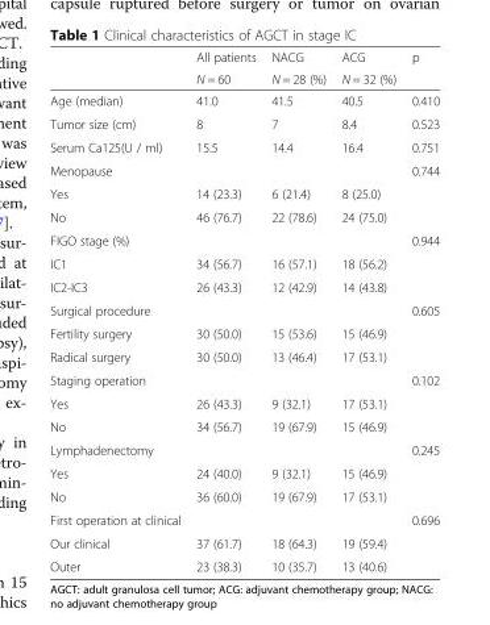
<table><thead><tr><td rowspan="2"></td><td rowspan="2">All patients N = 60</td><td rowspan="2">NACG N = 28 (%)</td><td rowspan="2">ACG N = 32 (%)</td><td rowspan="2">p</td></tr><tr></tr></thead><tbody><tr><td>Age (median)</td><td>41.0</td><td>41.5</td><td>40.5</td><td>0.410</td></tr><tr><td>Tumor size (cm)</td><td>8</td><td>7</td><td>8.4</td><td>0.523</td></tr><tr><td>Serum Ca125(U / ml)</td><td>15.5</td><td>14.4</td><td>16.4</td><td>0.751</td></tr><tr><td>Menopause</td><td></td><td></td><td></td><td>0.744</td></tr><tr><td>Yes</td><td>14 (23.3)</td><td>6 (21.4)</td><td>8 (25.0)</td><td></td></tr><tr><td>No</td><td>46 (76.7)</td><td>22 (78.6)</td><td>24 (75.0)</td><td></td></tr><tr><td>FIGO stage (%)</td><td></td><td></td><td></td><td>0.944</td></tr><tr><td>IC1</td><td>34 (56.7)</td><td>16 (57.1)</td><td>18 (56.2)</td><td></td></tr><tr><td>IC2-IC3</td><td>26 (43.3)</td><td>12 (42.9)</td><td>14 (43.8)</td><td></td></tr><tr><td>Surgical procedure</td><td></td><td></td><td></td><td>0.605</td></tr><tr><td>Fertility surgery</td><td>30 (50.0)</td><td>15 (53.6)</td><td>15 (46.9)</td><td></td></tr><tr><td>Radical surgery</td><td>30 (50.0)</td><td>13 (46.4)</td><td>17 (53.1)</td><td></td></tr><tr><td>Staging operation</td><td></td><td></td><td></td><td>0.102</td></tr><tr><td>Yes</td><td>26 (43.3)</td><td>9 (32.1)</td><td>17 (53.1)</td><td></td></tr><tr><td>No</td><td>34 (56.7)</td><td>19 (67.9)</td><td>15 (46.9)</td><td></td></tr><tr><td>Lymphadenectomy</td><td></td><td></td><td></td><td>0.245</td></tr><tr><td>Yes</td><td>24 (40.0)</td><td>9 (32.1)</td><td>15 (46.9)</td><td></td></tr><tr><td>No</td><td>36 (60.0)</td><td>19 (67.9)</td><td>17 (53.1)</td><td></td></tr><tr><td>First operation at clinical</td><td></td><td></td><td></td><td>0.696</td></tr><tr><td>Our clinical</td><td>37 (61.7)</td><td>18 (64.3)</td><td>19 (59.4)</td><td></td></tr><tr><td>Outer</td><td>23 (38.3)</td><td>10 (35.7)</td><td>13 (40.6)</td><td></td></tr></tbody></table>